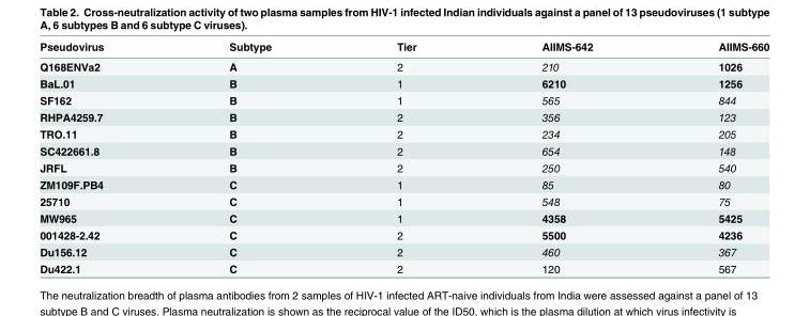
<table><thead><tr><td>Pseudovirus</td><td>Subtype</td><td>Tier</td><td>AIIMS-642</td><td>AIIMS-660</td></tr></thead><tbody><tr><td>Q168ENVa2</td><td>A</td><td>2</td><td>210</td><td>1026</td></tr><tr><td>BaL.01</td><td>B</td><td>1</td><td>6210</td><td>1256</td></tr><tr><td>SF162</td><td>B</td><td>1</td><td>565</td><td>844</td></tr><tr><td>RHPA4259.7</td><td>B</td><td>2</td><td>356</td><td>123</td></tr><tr><td>TRO.11</td><td>B</td><td>2</td><td>234</td><td>205</td></tr><tr><td>SC422661.8</td><td>B</td><td>2</td><td>654</td><td>148</td></tr><tr><td>JRFL</td><td>B</td><td>2</td><td>250</td><td>540</td></tr><tr><td>ZM109F.PB4</td><td>C</td><td>1</td><td>85</td><td>80</td></tr><tr><td>25710</td><td>C</td><td>1</td><td>548</td><td>75</td></tr><tr><td>MW965</td><td>C</td><td>1</td><td>4358</td><td>5425</td></tr><tr><td>001428-2.42</td><td>C</td><td>2</td><td>5500</td><td>4236</td></tr><tr><td>Du156.12</td><td>C</td><td>2</td><td>460</td><td>367</td></tr><tr><td>Du422.1</td><td>C</td><td>2</td><td>120</td><td>567</td></tr></tbody></table>